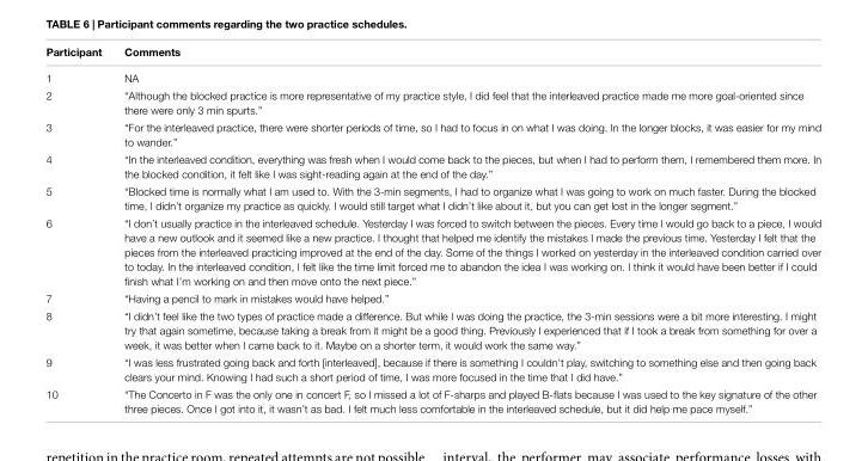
<table><thead><tr><td>Participant</td><td>Comments</td></tr></thead><tbody><tr><td>1</td><td>NA</td></tr><tr><td>2</td><td>“Although the blocked practice is more representative of my practice style, I did feel that the interleaved practice made me more goal-oriented since there were only 3 min spurts.”</td></tr><tr><td>3</td><td>“For the interleaved practice, there were shorter periods of time, so I had to focus in on what I was doing. In the longer blocks, it was easier for my mind to wander.”</td></tr><tr><td>4</td><td>“In the interleaved condition, everything was fresh when I would come back to the pieces, but when I had to perform them, I remembered them more. In the blocked condition, it felt like I was sight-reading again at the end of the day.”</td></tr><tr><td>5</td><td>“Blocked time is normally what I am used to. With the 3-min segments, I had to organize what I was going to work on much faster. During the blocked time, I didn’t organize my practice as quickly. I would still target what I didn’t like about it, but you can get lost in the longer segment.”</td></tr><tr><td>6</td><td>“I don’t usually practice in the interleaved schedule. Yesterday I was forced to switch between the pieces. Every time I would go back to a piece, I would have a new outlook and it seemed like a new practice. I thought that helped me identify the mistakes I made the previous time. Yesterday I felt that the pieces from the interleaved practicing improved at the end of the day. Some of the things I worked on yesterday in the interleaved condition carried over to today. In the interleaved condition, I felt like the time limit forced me to abandon the idea I was working on. I think it would have been better if I could finish what I’m working on and then move onto the next piece.”</td></tr><tr><td>7</td><td>“Having a pencil to mark in mistakes would have helped.”</td></tr><tr><td>8</td><td>“I didn’t feel like the two types of practice made a difference. But while I was doing the practice, the 3-min sessions were a bit more interesting. I might try that again sometime, because taking a break from it might be a good thing. Previously I experienced that if I took a break from something for over a week, it was better when I came back to it. Maybe on a shorter term, it would work the same way.”</td></tr><tr><td>9</td><td>“I was less frustrated going back and forth [interleaved], because if there is something I couldn’t play, switching to something else and then going back clears your mind. Knowing I had such a short period of time, I was more focused in the time that I did have.”</td></tr><tr><td>10</td><td>“The Concerto in F was the only one in concert F, so I missed a lot of F-sharps and played B-flats because I was used to the key signature of the other three pieces. Once I got into it, it wasn’t as bad. I felt much less comfortable in the interleaved schedule, but it did help me pace myself.”</td></tr></tbody></table>